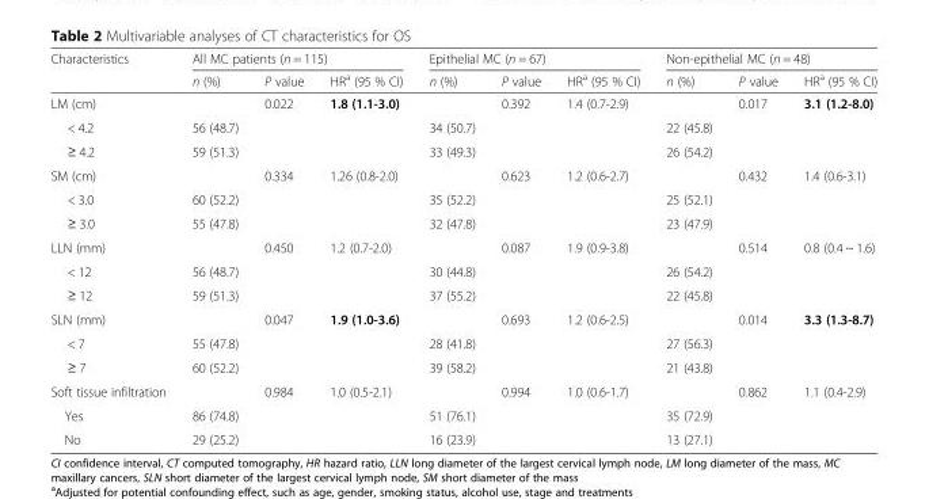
<table><thead><tr><td rowspan="2">Characteristics</td><td colspan="3">All MC patients (n = 115)</td><td colspan="3">Epithelial MC (n = 67)</td><td colspan="3">Non-epithelial MC (n = 48)</td></tr><tr><td>n (%)</td><td>P value</td><td>HR<sup>a</sup> (95 % CI)</td><td>n (%)</td><td>P value</td><td>HR<sup>a</sup> (95 % CI)</td><td>n (%)</td><td>P value</td><td>HR<sup>a</sup> (95 % CI)</td></tr></thead><tbody><tr><td>LM (cm)</td><td></td><td>0.022</td><td>1.8 (1.1-3.0)</td><td></td><td>0.392</td><td>1.4 (0.7-2.9)</td><td></td><td>0.017</td><td>3.1 (1.2-8.0)</td></tr><tr><td>&lt; 4.2</td><td>56 (48.7)</td><td></td><td></td><td>34 (50.7)</td><td></td><td></td><td>22 (45.8)</td><td></td><td></td></tr><tr><td>≥ 4.2</td><td>59 (51.3)</td><td></td><td></td><td>33 (49.3)</td><td></td><td></td><td>26 (54.2)</td><td></td><td></td></tr><tr><td>SM (cm)</td><td></td><td>0.334</td><td>1.26 (0.8-2.0)</td><td></td><td>0.623</td><td>1.2 (0.6-2.7)</td><td></td><td>0.432</td><td>1.4 (0.6-3.1)</td></tr><tr><td>&lt; 3.0</td><td>60 (52.2)</td><td></td><td></td><td>35 (52.2)</td><td></td><td></td><td>25 (52.1)</td><td></td><td></td></tr><tr><td>≥ 3.0</td><td>55 (47.8)</td><td></td><td></td><td>32 (47.8)</td><td></td><td></td><td>23 (47.9)</td><td></td><td></td></tr><tr><td>LLN (mm)</td><td></td><td>0.450</td><td>1.2 (0.7-2.0)</td><td></td><td>0.087</td><td>1.9 (0.9-3.8)</td><td></td><td>0.514</td><td>0.8 (0.4 ~ 1.6)</td></tr><tr><td>&lt; 12</td><td>56 (48.7)</td><td></td><td></td><td>30 (44.8)</td><td></td><td></td><td>26 (54.2)</td><td></td><td></td></tr><tr><td>≥ 12</td><td>59 (51.3)</td><td></td><td></td><td>37 (55.2)</td><td></td><td></td><td>22 (45.8)</td><td></td><td></td></tr><tr><td>SLN (mm)</td><td></td><td>0.047</td><td>1.9 (1.0-3.6)</td><td></td><td>0.693</td><td>1.2 (0.6-2.5)</td><td></td><td>0.014</td><td>3.3 (1.3-8.7)</td></tr><tr><td>&lt; 7</td><td>55 (47.8)</td><td></td><td></td><td>28 (41.8)</td><td></td><td></td><td>27 (56.3)</td><td></td><td></td></tr><tr><td>≥ 7</td><td>60 (52.2)</td><td></td><td></td><td>39 (58.2)</td><td></td><td></td><td>21 (43.8)</td><td></td><td></td></tr><tr><td>Soft tissue infiltration</td><td></td><td>0.984</td><td>1.0 (0.5-2.1)</td><td></td><td>0.994</td><td>1.0 (0.6-1.7)</td><td></td><td>0.862</td><td>1.1 (0.4-2.9)</td></tr><tr><td>Yes</td><td>86 (74.8)</td><td></td><td></td><td>51 (76.1)</td><td></td><td></td><td>35 (72.9)</td><td></td><td></td></tr><tr><td>No</td><td>29 (25.2)</td><td></td><td></td><td>16 (23.9)</td><td></td><td></td><td>13 (27.1)</td><td></td><td></td></tr></tbody></table>